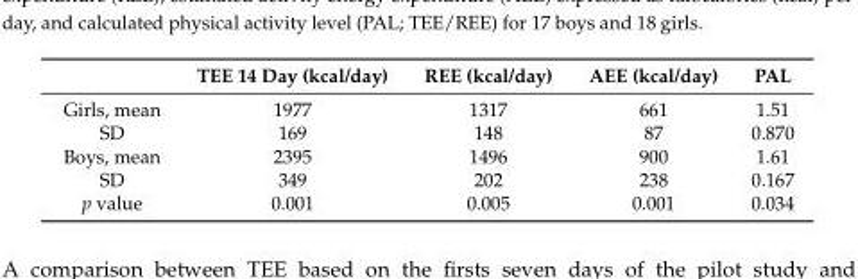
<table><thead><tr><td></td><td>TEE 14 Day (kcal/day)</td><td>REE (kcal/day)</td><td>AEE (kcal/day)</td><td>PAL</td></tr></thead><tbody><tr><td>Girls, mean</td><td>1977</td><td>1317</td><td>661</td><td>1.51</td></tr><tr><td>SD</td><td>169</td><td>148</td><td>87</td><td>0.870</td></tr><tr><td>Boys, mean</td><td>2395</td><td>1496</td><td>900</td><td>1.61</td></tr><tr><td>SD</td><td>349</td><td>202</td><td>238</td><td>0.167</td></tr><tr><td>p value</td><td>0.001</td><td>0.005</td><td>0.001</td><td>0.034</td></tr></tbody></table>